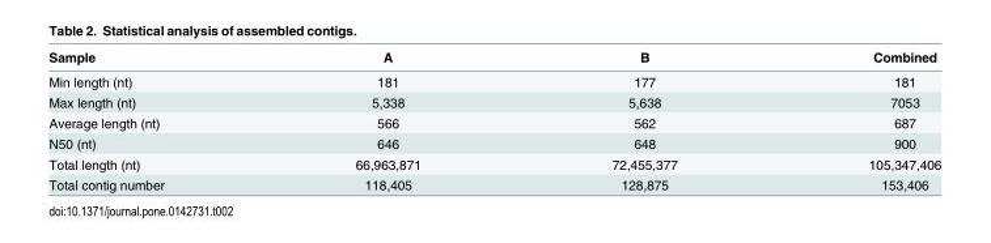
<table><thead><tr><td>Sample</td><td>A</td><td>B</td><td>Combined</td></tr></thead><tbody><tr><td>Min length (nt)</td><td>181</td><td>177</td><td>181</td></tr><tr><td>Max length (nt)</td><td>5,338</td><td>5,638</td><td>7053</td></tr><tr><td>Average length (nt)</td><td>566</td><td>562</td><td>687</td></tr><tr><td>N50 (nt)</td><td>646</td><td>648</td><td>900</td></tr><tr><td>Total length (nt)</td><td>66,963,871</td><td>72,455,377</td><td>105,347,406</td></tr><tr><td>Total contig number</td><td>118,405</td><td>128,875</td><td>153,406</td></tr></tbody></table>